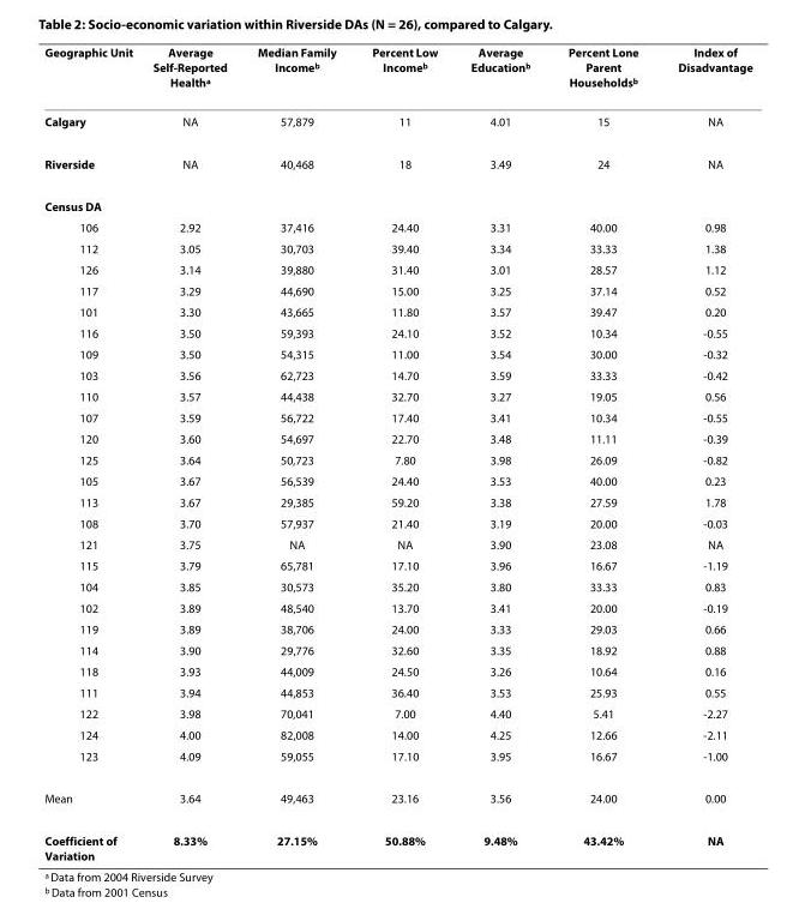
<table><thead><tr><td>Geographic Unit</td><td>Average Self-Reported Health<sup>a</sup></td><td>Median Family Income<sup>b</sup></td><td>Percent Low Income<sup>b</sup></td><td>Average Education<sup>b</sup></td><td>Percent Lone Parent Households<sup>b</sup></td><td>Index of Disadvantage</td></tr></thead><tbody><tr><td>Calgary</td><td>NA</td><td>57,879</td><td>11</td><td>4.01</td><td>15</td><td>NA</td></tr><tr><td>Riverside</td><td>NA</td><td>40,468</td><td>18</td><td>3.49</td><td>24</td><td>NA</td></tr><tr><td colspan="7">Census DA</td></tr><tr><td>106</td><td>2.92</td><td>37,416</td><td>24.40</td><td>3.31</td><td>40.00</td><td>0.98</td></tr><tr><td>112</td><td>3.05</td><td>30,703</td><td>39.40</td><td>3.34</td><td>33.33</td><td>1.38</td></tr><tr><td>126</td><td>3.14</td><td>39,880</td><td>31.40</td><td>3.01</td><td>28.57</td><td>1.12</td></tr><tr><td>117</td><td>3.29</td><td>44,690</td><td>15.00</td><td>3.25</td><td>37.14</td><td>0.52</td></tr><tr><td>101</td><td>3.30</td><td>43,665</td><td>11.80</td><td>3.57</td><td>39.47</td><td>0.20</td></tr><tr><td>116</td><td>3.50</td><td>59,393</td><td>24.10</td><td>3.52</td><td>10.34</td><td>-0.55</td></tr><tr><td>109</td><td>3.50</td><td>54,315</td><td>11.00</td><td>3.54</td><td>30.00</td><td>-0.32</td></tr><tr><td>103</td><td>3.56</td><td>62,723</td><td>14.70</td><td>3.59</td><td>33.33</td><td>-0.42</td></tr><tr><td>110</td><td>3.57</td><td>44,438</td><td>32.70</td><td>3.27</td><td>19.05</td><td>0.56</td></tr><tr><td>107</td><td>3.59</td><td>56,722</td><td>17.40</td><td>3.41</td><td>10.34</td><td>-0.55</td></tr><tr><td>120</td><td>3.60</td><td>54,697</td><td>22.70</td><td>3.48</td><td>11.11</td><td>-0.39</td></tr><tr><td>125</td><td>3.64</td><td>50,723</td><td>7.80</td><td>3.98</td><td>26.09</td><td>-0.82</td></tr><tr><td>105</td><td>3.67</td><td>56,539</td><td>24.40</td><td>3.53</td><td>40.00</td><td>0.23</td></tr><tr><td>113</td><td>3.67</td><td>29,385</td><td>59.20</td><td>3.38</td><td>27.59</td><td>1.78</td></tr><tr><td>108</td><td>3.70</td><td>57,937</td><td>21.40</td><td>3.19</td><td>20.00</td><td>-0.03</td></tr><tr><td>121</td><td>3.75</td><td>NA</td><td>NA</td><td>3.90</td><td>23.08</td><td>NA</td></tr><tr><td>115</td><td>3.79</td><td>65,781</td><td>17.10</td><td>3.96</td><td>16.67</td><td>-1.19</td></tr><tr><td>104</td><td>3.85</td><td>30,573</td><td>35.20</td><td>3.80</td><td>33.33</td><td>0.83</td></tr><tr><td>102</td><td>3.89</td><td>48,540</td><td>13.70</td><td>3.41</td><td>20.00</td><td>-0.19</td></tr><tr><td>119</td><td>3.89</td><td>38,706</td><td>24.00</td><td>3.33</td><td>29.03</td><td>0.66</td></tr><tr><td>114</td><td>3.90</td><td>29,776</td><td>32.60</td><td>3.35</td><td>18.92</td><td>0.88</td></tr><tr><td>118</td><td>3.93</td><td>44,009</td><td>24.50</td><td>3.26</td><td>10.64</td><td>0.16</td></tr><tr><td>111</td><td>3.94</td><td>44,853</td><td>36.40</td><td>3.53</td><td>25.93</td><td>0.55</td></tr><tr><td>122</td><td>3.98</td><td>70,041</td><td>7.00</td><td>4.40</td><td>5.41</td><td>-2.27</td></tr><tr><td>124</td><td>4.00</td><td>82,008</td><td>14.00</td><td>4.25</td><td>12.66</td><td>-2.11</td></tr><tr><td>123</td><td>4.09</td><td>59,055</td><td>17.10</td><td>3.95</td><td>16.67</td><td>-1.00</td></tr><tr><td>Mean</td><td>3.64</td><td>49,463</td><td>23.16</td><td>3.56</td><td>24.00</td><td>0.00</td></tr><tr><td>Coefficient of Variation</td><td>8.33%</td><td>27.15%</td><td>50.88%</td><td>9.48%</td><td>43.42%</td><td>NA</td></tr></tbody></table>